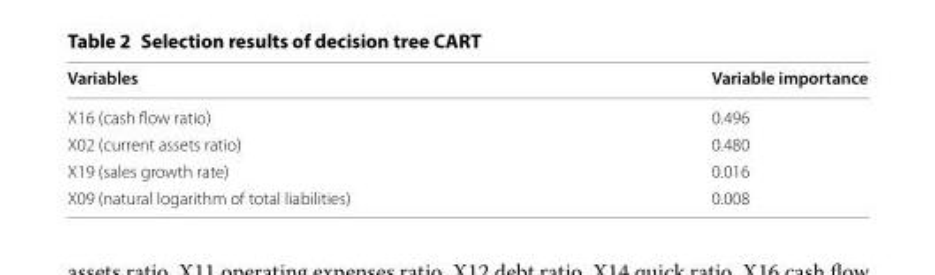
<table><thead><tr><td>Variables</td><td>Variable importance</td></tr></thead><tbody><tr><td>X16 (cash flow ratio)</td><td>0.496</td></tr><tr><td>X02 (current assets ratio)</td><td>0.480</td></tr><tr><td>X19 (sales growth rate)</td><td>0.016</td></tr><tr><td>X09 (natural logarithm of total liabilities)</td><td>0.008</td></tr></tbody></table>